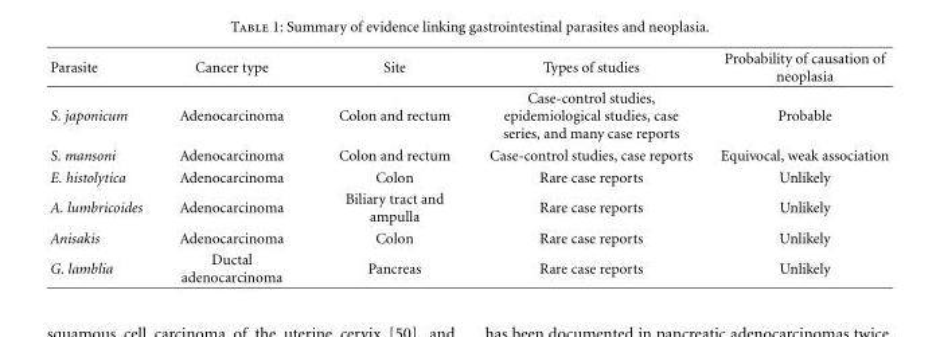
<table><thead><tr><td>Parasite</td><td>Cancer type</td><td>Site</td><td>Types of studies</td><td>Probability of causation of neoplasia</td></tr></thead><tbody><tr><td>S. japonicum</td><td>Adenocarcinoma</td><td>Colon and rectum</td><td>Case-control studies, epidemiological studies, case series, and many case reports</td><td>Probable</td></tr><tr><td>S. mansoni</td><td>Adenocarcinoma</td><td>Colon and rectum</td><td>Case-control studies, case reports</td><td>Equivocal, weak association</td></tr><tr><td>E. histolytica</td><td>Adenocarcinoma</td><td>Colon</td><td>Rare case reports</td><td>Unlikely</td></tr><tr><td>A. lumbricoides</td><td>Adenocarcinoma</td><td>Biliary tract and ampulla</td><td>Rare case reports</td><td>Unlikely</td></tr><tr><td>Anisakis</td><td>Adenocarcinoma</td><td>Colon</td><td>Rare case reports</td><td>Unlikely</td></tr><tr><td>G. lamblia</td><td>Ductal adenocarcinoma</td><td>Pancreas</td><td>Rare case reports</td><td>Unlikely</td></tr></tbody></table>